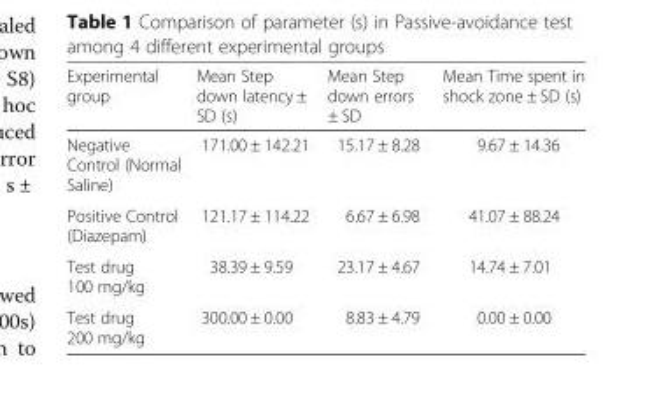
<table><thead><tr><td>Experimental group</td><td>Mean Step down latency ± SD (s)</td><td>Mean Step down errors ± SD</td><td>Mean Time spent in shock zone ± SD (s)</td></tr></thead><tbody><tr><td>Negative Control (Normal Saline)</td><td>171.00 ± 142.21</td><td>15.17 ± 8.28</td><td>9.67 ± 14.36</td></tr><tr><td>Positive Control (Diazepam)</td><td>121.17 ± 114.22</td><td>6.67 ± 6.98</td><td>41.07 ± 88.24</td></tr><tr><td>Test drug 100 mg/kg</td><td>38.39 ± 9.59</td><td>23.17 ± 4.67</td><td>14.74 ± 7.01</td></tr><tr><td>Test drug 200 mg/kg</td><td>300.00 ± 0.00</td><td>8.83 ± 4.79</td><td>0.00 ± 0.00</td></tr></tbody></table>